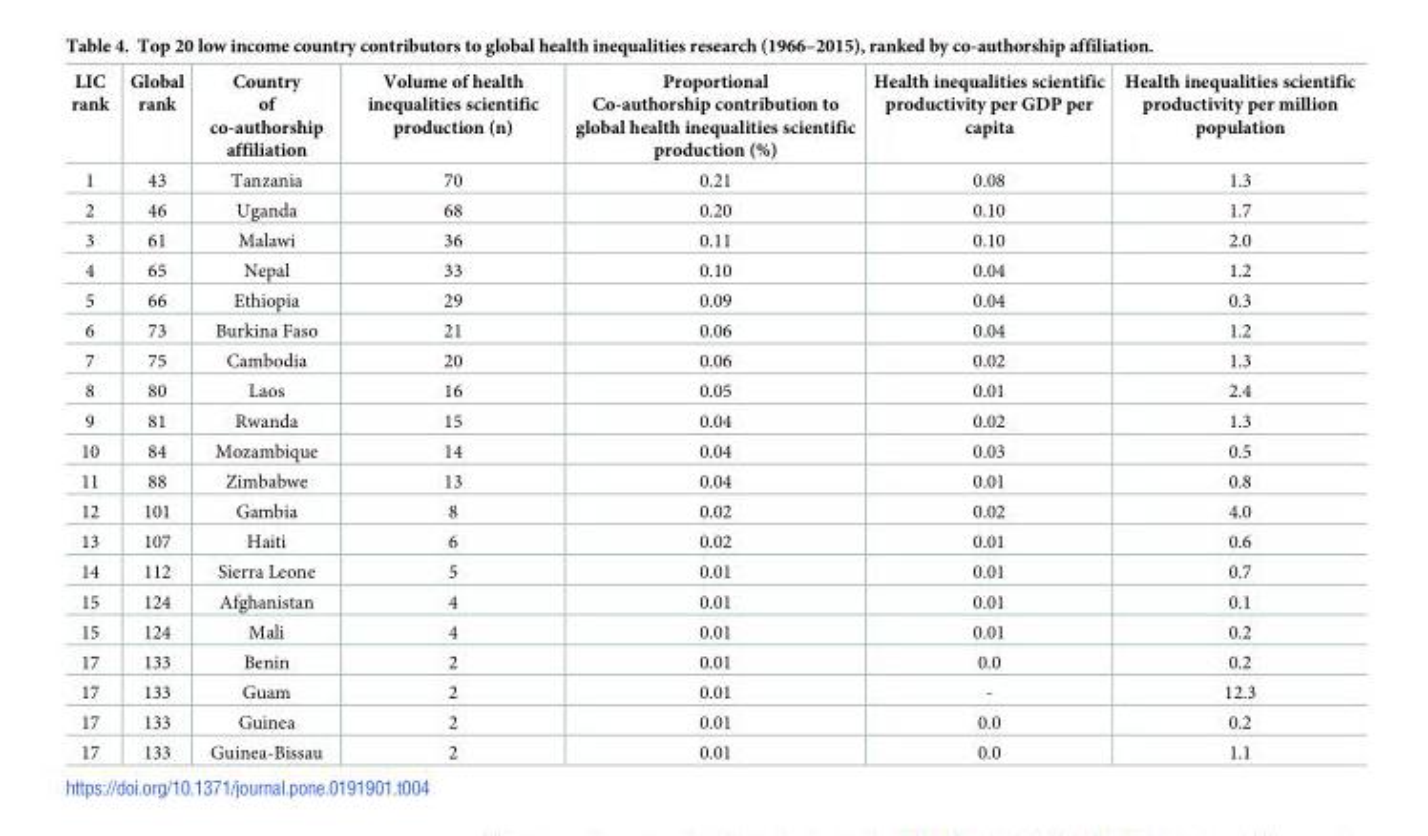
<table><thead><tr><td>LIC rank</td><td>Global rank</td><td>Country of co-authorship affiliation</td><td>Volume of health inequalities scientific production (n)</td><td>Proportional Co-authorship contribution to global health inequalities scientific production (%)</td><td>Health inequalities scientific productivity per GDP per capita</td><td>Health inequalities scientific productivity per million population</td></tr></thead><tbody><tr><td>1</td><td>43</td><td>Tanzania</td><td>70</td><td>0.21</td><td>0.08</td><td>1.3</td></tr><tr><td>2</td><td>46</td><td>Uganda</td><td>68</td><td>0.20</td><td>0.10</td><td>1.7</td></tr><tr><td>3</td><td>61</td><td>Malawi</td><td>36</td><td>0.11</td><td>0.10</td><td>2.0</td></tr><tr><td>4</td><td>65</td><td>Nepal</td><td>33</td><td>0.10</td><td>0.04</td><td>1.2</td></tr><tr><td>5</td><td>66</td><td>Ethiopia</td><td>29</td><td>0.09</td><td>0.04</td><td>0.3</td></tr><tr><td>6</td><td>73</td><td>Burkina Faso</td><td>21</td><td>0.06</td><td>0.04</td><td>1.2</td></tr><tr><td>7</td><td>75</td><td>Cambodia</td><td>20</td><td>0.06</td><td>0.02</td><td>1.3</td></tr><tr><td>8</td><td>80</td><td>Laos</td><td>16</td><td>0.05</td><td>0.01</td><td>2.4</td></tr><tr><td>9</td><td>81</td><td>Rwanda</td><td>15</td><td>0.04</td><td>0.02</td><td>1.3</td></tr><tr><td>10</td><td>84</td><td>Mozambique</td><td>14</td><td>0.04</td><td>0.03</td><td>0.5</td></tr><tr><td>11</td><td>88</td><td>Zimbabwe</td><td>13</td><td>0.04</td><td>0.01</td><td>0.8</td></tr><tr><td>12</td><td>101</td><td>Gambia</td><td>8</td><td>0.02</td><td>0.02</td><td>4.0</td></tr><tr><td>13</td><td>107</td><td>Haiti</td><td>6</td><td>0.02</td><td>0.01</td><td>0.6</td></tr><tr><td>14</td><td>112</td><td>Sierra Leone</td><td>5</td><td>0.01</td><td>0.01</td><td>0.7</td></tr><tr><td>15</td><td>124</td><td>Afghanistan</td><td>4</td><td>0.01</td><td>0.01</td><td>0.1</td></tr><tr><td>15</td><td>124</td><td>Mali</td><td>4</td><td>0.01</td><td>0.01</td><td>0.2</td></tr><tr><td>17</td><td>133</td><td>Benin</td><td>2</td><td>0.01</td><td>0.0</td><td>0.2</td></tr><tr><td>17</td><td>133</td><td>Guam</td><td>2</td><td>0.01</td><td>-</td><td>12.3</td></tr><tr><td>17</td><td>133</td><td>Guinea</td><td>2</td><td>0.01</td><td>0.0</td><td>0.2</td></tr><tr><td>17</td><td>133</td><td>Guinea-Bissau</td><td>2</td><td>0.01</td><td>0.0</td><td>1.1</td></tr></tbody></table>